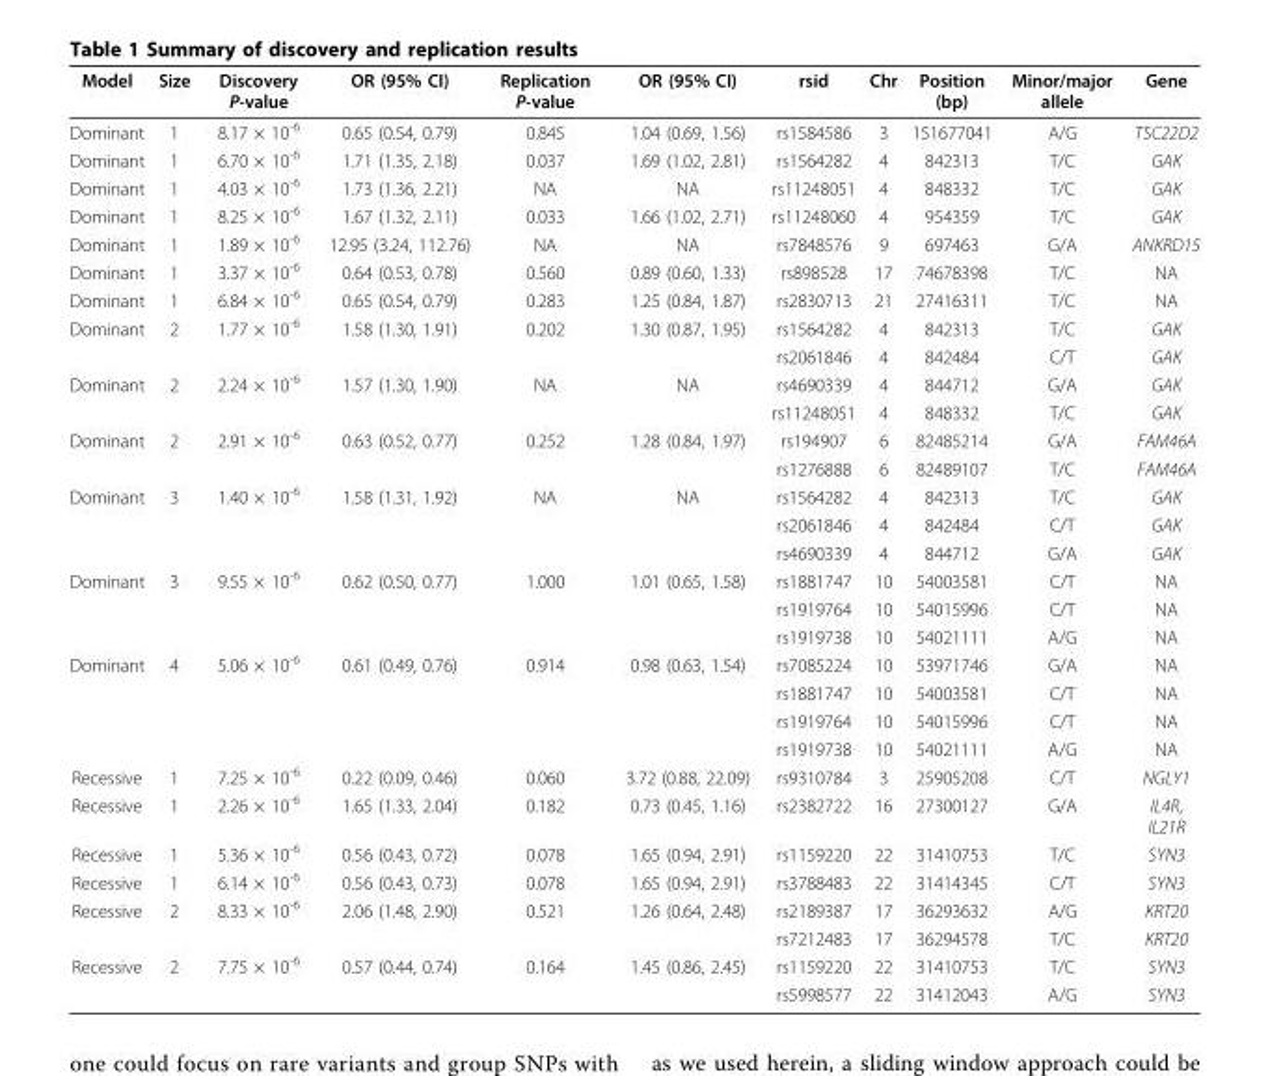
<table><thead><tr><td>Model</td><td>Size</td><td>Discovery P-value</td><td>OR (95% CI)</td><td>Replication P-value</td><td>OR (95% CI)</td><td>rsid</td><td>Chr</td><td>Position (bp)</td><td>Minor/major allele</td><td>Gene</td></tr></thead><tbody><tr><td>Dominant</td><td>1</td><td>8.17 × 10<sup>-6</sup></td><td>0.65 (0.54, 0.79)</td><td>0.845</td><td>1.04 (0.69, 1.56)</td><td>rs1584586</td><td>3</td><td>151677041</td><td>A/G</td><td>TSC22D2</td></tr><tr><td>Dominant</td><td>1</td><td>6.70 × 10<sup>-6</sup></td><td>1.71 (1.35, 2.18)</td><td>0.037</td><td>1.69 (1.02, 2.81)</td><td>rs1564282</td><td>4</td><td>842313</td><td>T/C</td><td>GAK</td></tr><tr><td>Dominant</td><td>1</td><td>4.03 × 10<sup>-6</sup></td><td>1.73 (1.36, 2.21)</td><td>NA</td><td>NA</td><td>rs11248051</td><td>4</td><td>848332</td><td>T/C</td><td>GAK</td></tr><tr><td>Dominant</td><td>1</td><td>8.25 × 10<sup>-6</sup></td><td>1.67 (1.32, 2.11)</td><td>0.033</td><td>1.66 (1.02, 2.71)</td><td>rs11248060</td><td>4</td><td>954359</td><td>T/C</td><td>GAK</td></tr><tr><td>Dominant</td><td>1</td><td>1.89 × 10<sup>-6</sup></td><td>12.95 (3.24, 112.76)</td><td>NA</td><td>NA</td><td>rs7848576</td><td>9</td><td>697463</td><td>G/A</td><td>ANKRD15</td></tr><tr><td>Dominant</td><td>1</td><td>3.37 × 10<sup>-6</sup></td><td>0.64 (0.53, 0.78)</td><td>0.560</td><td>0.89 (0.60, 1.33)</td><td>rs898528</td><td>17</td><td>74678398</td><td>T/C</td><td>NA</td></tr><tr><td>Dominant</td><td>1</td><td>6.84 × 10<sup>-6</sup></td><td>0.65 (0.54, 0.79)</td><td>0.283</td><td>1.25 (0.84, 1.87)</td><td>rs2830713</td><td>21</td><td>27416311</td><td>T/C</td><td>NA</td></tr><tr><td rowspan="2">Dominant</td><td>2</td><td>1.77 × 10<sup>-6</sup></td><td>1.58 (1.30, 1.91)</td><td>0.202</td><td>1.30 (0.87, 1.95)</td><td>rs1564282</td><td>4</td><td>842313</td><td>T/C</td><td>GAK</td></tr><tr><td></td><td></td><td></td><td></td><td></td><td>rs2061846</td><td>4</td><td>842484</td><td>C/T</td><td>GAK</td></tr><tr><td rowspan="2">Dominant</td><td>2</td><td>2.24 × 10<sup>-6</sup></td><td>1.57 (1.30, 1.90)</td><td>NA</td><td>NA</td><td>rs4690339</td><td>4</td><td>844712</td><td>G/A</td><td>GAK</td></tr><tr><td></td><td></td><td></td><td></td><td></td><td>rs11248051</td><td>4</td><td>848332</td><td>T/C</td><td>GAK</td></tr><tr><td rowspan="2">Dominant</td><td>2</td><td>2.91 × 10<sup>-6</sup></td><td>0.63 (0.52, 0.77)</td><td>0.252</td><td>1.28 (0.84, 1.97)</td><td>rs194907</td><td>6</td><td>82485214</td><td>G/A</td><td>FAM46A</td></tr><tr><td></td><td></td><td></td><td></td><td></td><td>rs1276888</td><td>6</td><td>82489107</td><td>T/C</td><td>FAM46A</td></tr><tr><td rowspan="3">Dominant</td><td>3</td><td>1.40 × 10<sup>-6</sup></td><td>1.58 (1.31, 1.92)</td><td>NA</td><td>NA</td><td>rs1564282</td><td>4</td><td>842313</td><td>T/C</td><td>GAK</td></tr><tr><td></td><td></td><td></td><td></td><td></td><td>rs2061846</td><td>4</td><td>842484</td><td>C/T</td><td>GAK</td></tr><tr><td></td><td></td><td></td><td></td><td></td><td>rs4690339</td><td>4</td><td>844712</td><td>G/A</td><td>GAK</td></tr><tr><td rowspan="3">Dominant</td><td>3</td><td>9.55 × 10<sup>-6</sup></td><td>0.62 (0.50, 0.77)</td><td>1.000</td><td>1.01 (0.65, 1.58)</td><td>rs1881747</td><td>10</td><td>54003581</td><td>C/T</td><td>NA</td></tr><tr><td></td><td></td><td></td><td></td><td></td><td>rs1919764</td><td>10</td><td>54015996</td><td>C/T</td><td>NA</td></tr><tr><td></td><td></td><td></td><td></td><td></td><td>rs1919738</td><td>10</td><td>54021111</td><td>A/G</td><td>NA</td></tr><tr><td rowspan="4">Dominant</td><td>4</td><td>5.06 × 10<sup>-6</sup></td><td>0.61 (0.49, 0.76)</td><td>0.914</td><td>0.98 (0.63, 1.54)</td><td>rs7085224</td><td>10</td><td>53971746</td><td>G/A</td><td>NA</td></tr><tr><td></td><td></td><td></td><td></td><td></td><td>rs1881747</td><td>10</td><td>54003581</td><td>C/T</td><td>NA</td></tr><tr><td></td><td></td><td></td><td></td><td></td><td>rs1919764</td><td>10</td><td>54015996</td><td>C/T</td><td>NA</td></tr><tr><td></td><td></td><td></td><td></td><td></td><td>rs1919738</td><td>10</td><td>54021111</td><td>A/G</td><td>NA</td></tr><tr><td>Recessive</td><td>1</td><td>7.25 × 10<sup>-6</sup></td><td>0.22 (0.09, 0.46)</td><td>0.060</td><td>3.72 (0.88, 22.09)</td><td>rs9310784</td><td>3</td><td>25905208</td><td>C/T</td><td>NGLY1</td></tr><tr><td>Recessive</td><td>1</td><td>2.26 × 10<sup>-6</sup></td><td>1.65 (1.33, 2.04)</td><td>0.182</td><td>0.73 (0.45, 1.16)</td><td>rs2382722</td><td>16</td><td>27300127</td><td>G/A</td><td>IL4R, IL21R</td></tr><tr><td>Recessive</td><td>1</td><td>5.36 × 10<sup>-6</sup></td><td>0.56 (0.43, 0.72)</td><td>0.078</td><td>1.65 (0.94, 2.91)</td><td>rs1159220</td><td>22</td><td>31410753</td><td>T/C</td><td>SYN3</td></tr><tr><td>Recessive</td><td>1</td><td>6.14 × 10<sup>-6</sup></td><td>0.56 (0.43, 0.73)</td><td>0.078</td><td>1.65 (0.94, 2.91)</td><td>rs3788483</td><td>22</td><td>31414345</td><td>C/T</td><td>SYN3</td></tr><tr><td rowspan="2">Recessive</td><td>2</td><td>8.33 × 10<sup>-6</sup></td><td>2.06 (1.48, 2.90)</td><td>0.521</td><td>1.26 (0.64, 2.48)</td><td>rs2189387</td><td>17</td><td>36293632</td><td>A/G</td><td>KRT20</td></tr><tr><td></td><td></td><td></td><td></td><td></td><td>rs7212483</td><td>17</td><td>36294578</td><td>T/C</td><td>KRT20</td></tr><tr><td rowspan="2">Recessive</td><td>2</td><td>7.75 × 10<sup>-6</sup></td><td>0.57 (0.44, 0.74)</td><td>0.164</td><td>1.45 (0.86, 2.45)</td><td>rs1159220</td><td>22</td><td>31410753</td><td>T/C</td><td>SYN3</td></tr><tr><td></td><td></td><td></td><td></td><td></td><td>rs5998577</td><td>22</td><td>31412043</td><td>A/G</td><td>SYN3</td></tr></tbody></table>